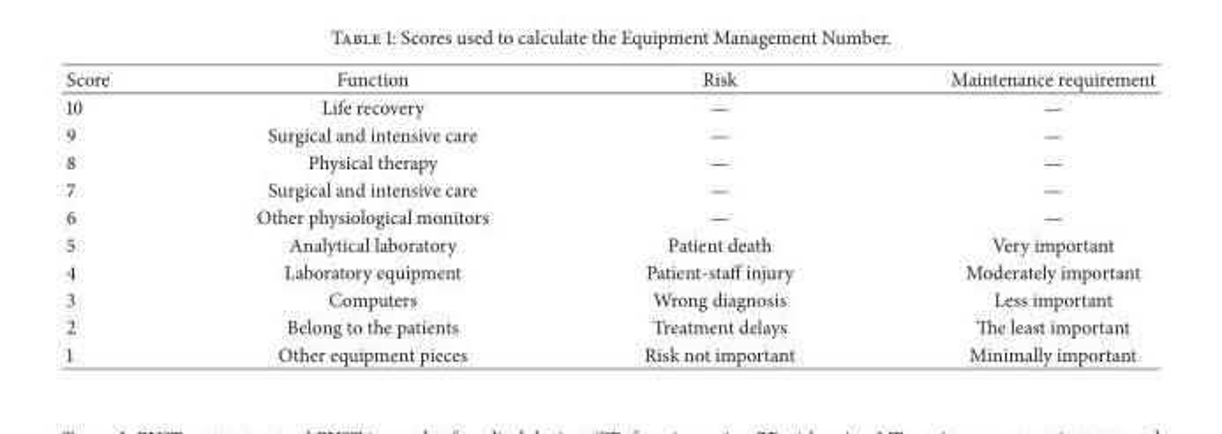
<table><thead><tr><td>Score</td><td>Function</td><td>Risk</td><td>Maintenance requirement</td></tr></thead><tbody><tr><td>10</td><td>Life recovery</td><td>—</td><td>—</td></tr><tr><td>9</td><td>Surgical and intensive care</td><td>—</td><td>—</td></tr><tr><td>8</td><td>Physical therapy</td><td>—</td><td>—</td></tr><tr><td>7</td><td>Surgical and intensive care</td><td>—</td><td>—</td></tr><tr><td>6</td><td>Other physiological monitors</td><td>—</td><td>—</td></tr><tr><td>5</td><td>Analytical laboratory</td><td>Patient death</td><td>Very important</td></tr><tr><td>4</td><td>Laboratory equipment</td><td>Patient-staff injury</td><td>Moderately important</td></tr><tr><td>3</td><td>Computers</td><td>Wrong diagnosis</td><td>Less important</td></tr><tr><td>2</td><td>Belong to the patients</td><td>Treatment delays</td><td>The least important</td></tr><tr><td>1</td><td>Other equipment pieces</td><td>Risk not important</td><td>Minimally important</td></tr></tbody></table>